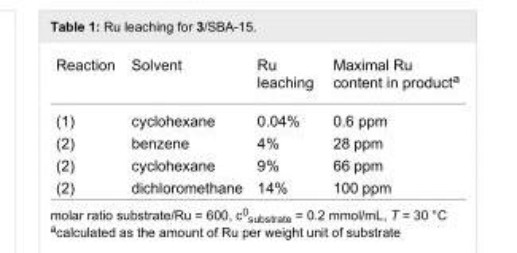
<table><tbody><tr><td>Reaction</td><td>Solvent</td><td>Ru leaching</td><td>Maximal Ru content in product<sup>a</sup></td></tr><tr><td>(1)</td><td>cyclohexane</td><td>0.04%</td><td>0.6 ppm</td></tr><tr><td>(2)</td><td>benzene</td><td>4%</td><td>28 ppm</td></tr><tr><td>(2)</td><td>cyclohexane</td><td>9%</td><td>66 ppm</td></tr><tr><td>(2)</td><td>dichloromethane</td><td>14%</td><td>100 ppm</td></tr></tbody></table>